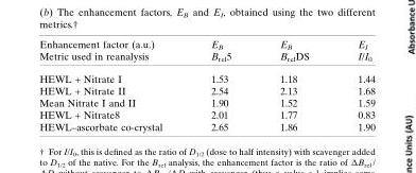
<table><thead><tr><td rowspan="2">Enhancement factor (a.u.) Metric used in reanalysis</td><td rowspan="2">E<sub>B</sub> B<sub>rel</sub>5</td><td rowspan="2">E<sub>B</sub> B<sub>rel</sub>DS</td><td rowspan="2">E<sub>I</sub> I/I<sub>0</sub></td></tr><tr></tr></thead><tbody><tr><td>HEWL + Nitrate I</td><td>1.53</td><td>1.18</td><td>1.44</td></tr><tr><td>HEWL + Nitrate II</td><td>2.54</td><td>2.13</td><td>1.68</td></tr><tr><td>Mean Nitrate I and II</td><td>1.90</td><td>1.52</td><td>1.59</td></tr><tr><td>HEWL + Nitrate8</td><td>2.01</td><td>1.77</td><td>0.83</td></tr><tr><td>HEWL–ascorbate co-crystal</td><td>2.65</td><td>1.86</td><td>1.90</td></tr></tbody></table>